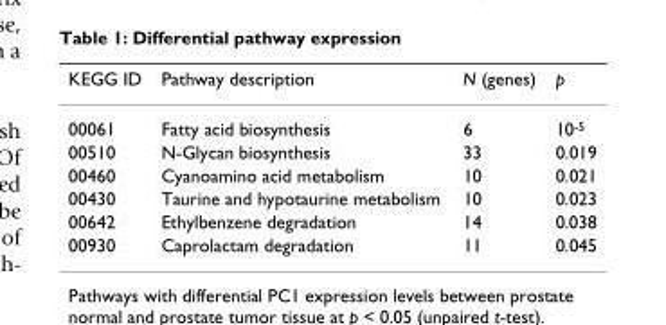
<table><thead><tr><td>KEGG ID</td><td>Pathway description</td><td>N (genes)</td><td>p</td></tr></thead><tbody><tr><td>00061</td><td>Fatty acid biosynthesis</td><td>6</td><td>10<sup>-5</sup></td></tr><tr><td>00510</td><td>N-Glycan biosynthesis</td><td>33</td><td>0.019</td></tr><tr><td>00460</td><td>Cyanoamino acid metabolism</td><td>10</td><td>0.021</td></tr><tr><td>00430</td><td>Taurine and hypotaurine metabolism</td><td>10</td><td>0.023</td></tr><tr><td>00642</td><td>Ethylbenzene degradation</td><td>14</td><td>0.038</td></tr><tr><td>00930</td><td>Caprolactam degradation</td><td>11</td><td>0.045</td></tr></tbody></table>